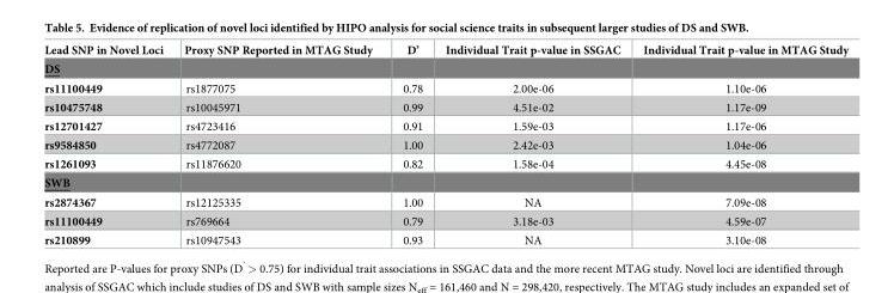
<table><thead><tr><td>Lead SNP in Novel Loci</td><td>Proxy SNP Reported in MTAG Study</td><td>D’</td><td>Individual Trait p-value in SSGAC</td><td>Individual Trait p-value in MTAG Study</td></tr></thead><tbody><tr><td colspan="5">DS</td></tr><tr><td>rs11100449</td><td>rs1877075</td><td>0.78</td><td>2.00e-06</td><td>1.10e-06</td></tr><tr><td>rs10475748</td><td>rs10045971</td><td>0.99</td><td>4.51e-02</td><td>1.17e-09</td></tr><tr><td>rs12701427</td><td>rs4723416</td><td>0.91</td><td>1.59e-03</td><td>1.17e-06</td></tr><tr><td>rs9584850</td><td>rs4772087</td><td>1.00</td><td>2.42e-03</td><td>1.04e-06</td></tr><tr><td>rs1261093</td><td>rs11876620</td><td>0.82</td><td>1.58e-04</td><td>4.45e-08</td></tr><tr><td colspan="5">SWB</td></tr><tr><td>rs2874367</td><td>rs12125335</td><td>1.00</td><td>NA</td><td>7.09e-08</td></tr><tr><td>rs11100449</td><td>rs769664</td><td>0.79</td><td>3.18e-03</td><td>4.59e-07</td></tr><tr><td>rs210899</td><td>rs10947543</td><td>0.93</td><td>NA</td><td>3.10e-08</td></tr></tbody></table>